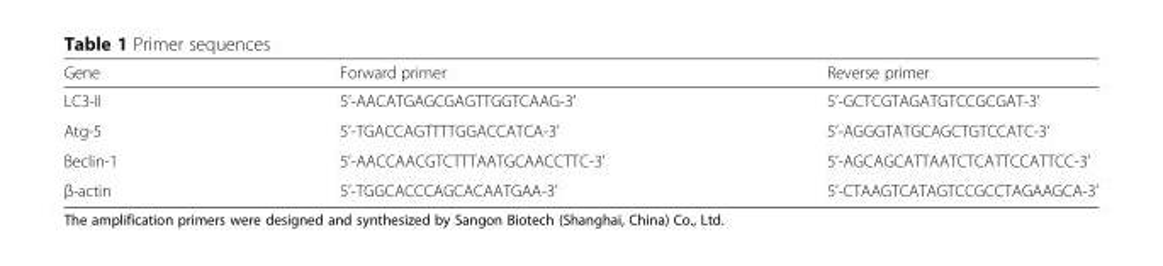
<table><thead><tr><td>Gene</td><td>Forward primer</td><td>Reverse primer</td></tr></thead><tbody><tr><td>LC3-II</td><td>5’-AACATGAGCGAGTTGGTCAAG-3’</td><td>5’-GCTCGTAGATGTCCGCGAT-3’</td></tr><tr><td>Atg-5</td><td>5’-TGACCAGTTTTGGACCATCA-3’</td><td>5’-AGGGTATGCAGCTGTCCATC-3’</td></tr><tr><td>Beclin-1</td><td>5’-AACCAACGTCTTTAATGCAACCTTC-3’</td><td>5’-AGCAGCATTAATCTCATTCCATTCC-3’</td></tr><tr><td>β-actin</td><td>5’-TGGCACCCAGCACAATGAA-3’</td><td>5’-CTAAGTCATAGTCCGCCTAGAAGCA-3’</td></tr></tbody></table>